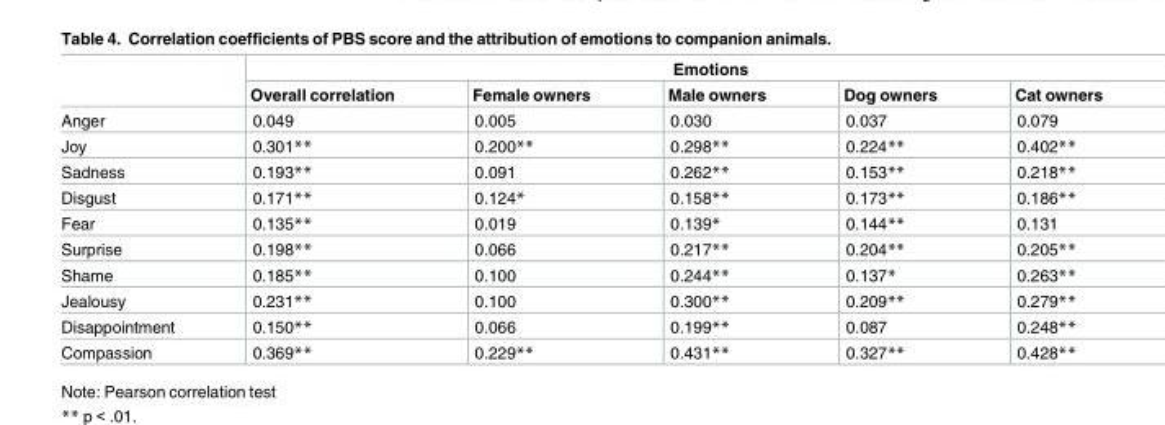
<table><thead><tr><td rowspan="2"></td><td colspan="5">Emotions</td></tr><tr><td>Overall correlation</td><td>Female owners</td><td>Male owners</td><td>Dog owners</td><td>Cat owners</td></tr></thead><tbody><tr><td>Anger</td><td>0.049</td><td>0.005</td><td>0.030</td><td>0.037</td><td>0.079</td></tr><tr><td>Joy</td><td>0.301**</td><td>0.200**</td><td>0.298**</td><td>0.224**</td><td>0.402**</td></tr><tr><td>Sadness</td><td>0.193**</td><td>0.091</td><td>0.262**</td><td>0.153**</td><td>0.218**</td></tr><tr><td>Disgust</td><td>0.171**</td><td>0.124*</td><td>0.158**</td><td>0.173**</td><td>0.186**</td></tr><tr><td>Fear</td><td>0.135**</td><td>0.019</td><td>0.139*</td><td>0.144**</td><td>0.131</td></tr><tr><td>Surprise</td><td>0.198**</td><td>0.066</td><td>0.217**</td><td>0.204**</td><td>0.205**</td></tr><tr><td>Shame</td><td>0.185**</td><td>0.100</td><td>0.244**</td><td>0.137*</td><td>0.263**</td></tr><tr><td>Jealousy</td><td>0.231**</td><td>0.100</td><td>0.300**</td><td>0.209**</td><td>0.279**</td></tr><tr><td>Disappointment</td><td>0.150**</td><td>0.066</td><td>0.199**</td><td>0.087</td><td>0.248**</td></tr><tr><td>Compassion</td><td>0.369**</td><td>0.229**</td><td>0.431**</td><td>0.327**</td><td>0.428**</td></tr></tbody></table>